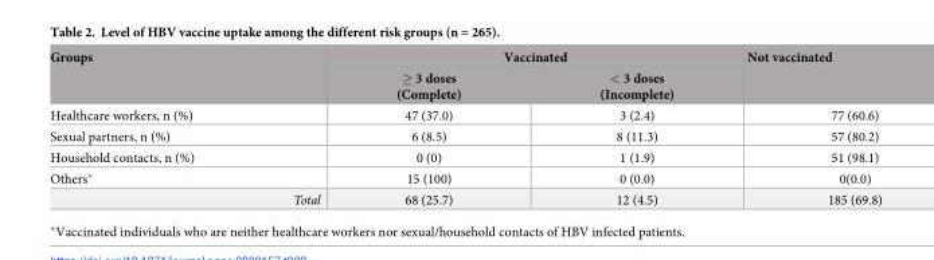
<table><thead><tr><td rowspan="2">Groups</td><td colspan="2">Vaccinated</td><td rowspan="2">Not vaccinated</td></tr><tr><td>≥ 3 doses (Complete)</td><td>&lt; 3 doses (Incomplete)</td></tr></thead><tbody><tr><td>Healthcare workers, n (%)</td><td>47 (37.0)</td><td>3 (2.4)</td><td>77 (60.6)</td></tr><tr><td>Sexual partners, n (%)</td><td>6 (8.5)</td><td>8 (11.3)</td><td>57 (80.2)</td></tr><tr><td>Household contacts, n (%)</td><td>0 (0)</td><td>1 (1.9)</td><td>51 (98.1)</td></tr><tr><td>Others*</td><td>15 (100)</td><td>0 (0.0)</td><td>0(0.0)</td></tr><tr><td>Total</td><td>68 (25.7)</td><td>12 (4.5)</td><td>185 (69.8)</td></tr></tbody></table>